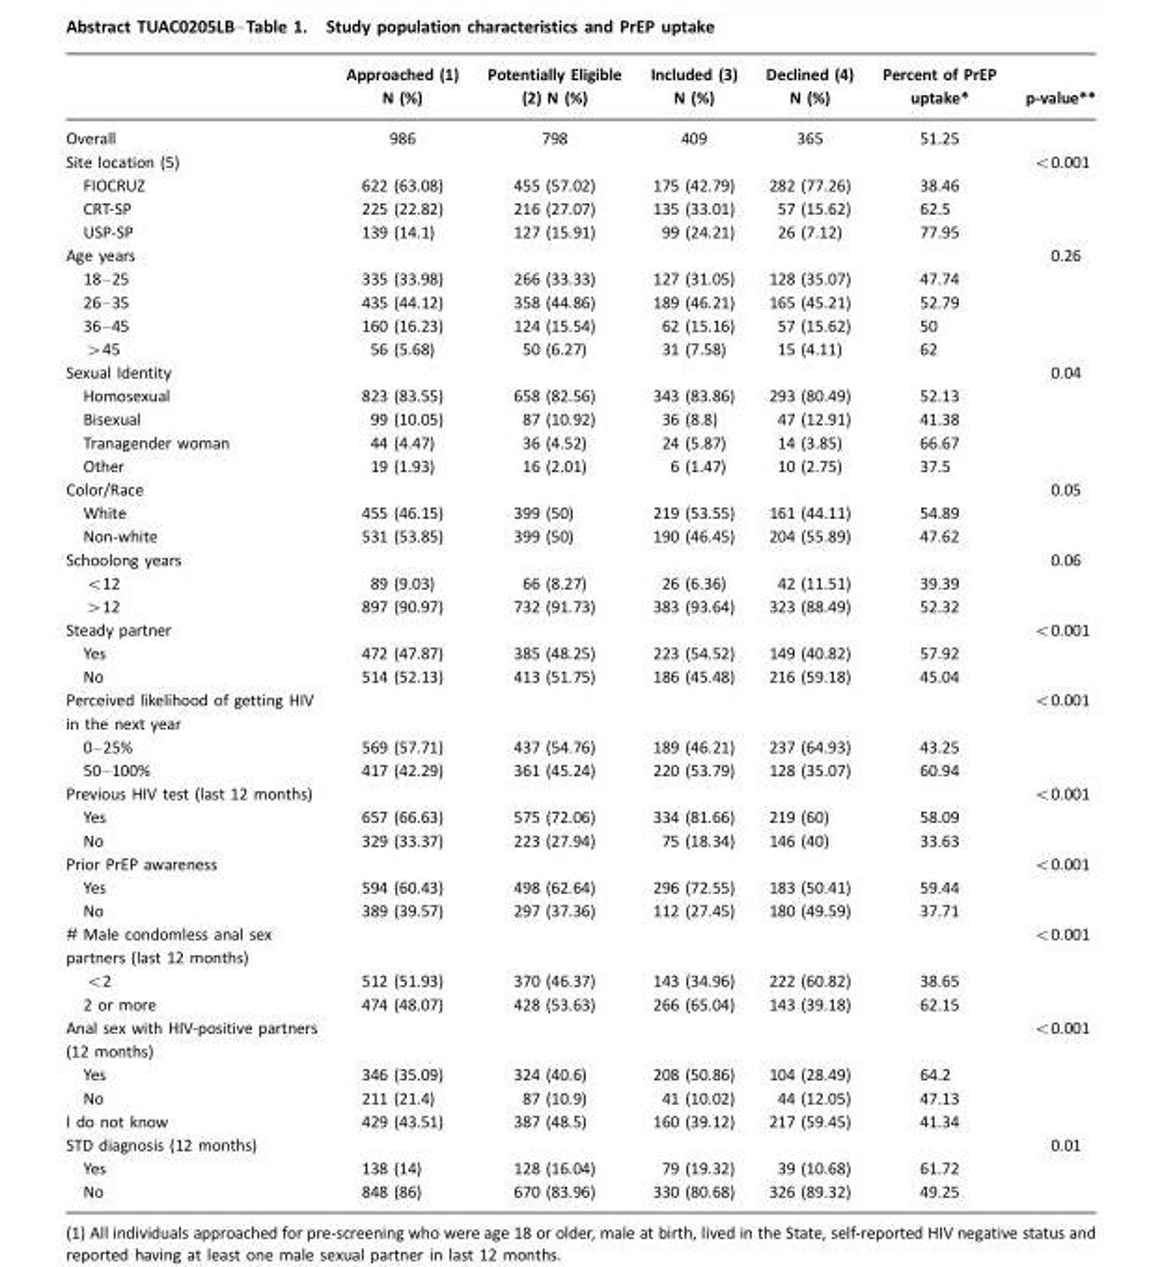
<table><thead><tr><td></td><td>Approached (1) N (%)</td><td>Potentially Eligible (2) N (%)</td><td>Included (3) N (%)</td><td>Declined (4) N (%)</td><td>Percent of PrEP uptake*</td><td>p-value**</td></tr></thead><tbody><tr><td>Overall</td><td>986</td><td>798</td><td>409</td><td>365</td><td>51.25</td><td></td></tr><tr><td>Site location (5)</td><td></td><td></td><td></td><td></td><td></td><td>&lt;0.001</td></tr><tr><td>FIOCRUZ</td><td>622 (63.08)</td><td>455 (57.02)</td><td>175 (42.79)</td><td>282 (77.26)</td><td>38.46</td><td></td></tr><tr><td>CRT-SP</td><td>225 (22.82)</td><td>216 (27.07)</td><td>135 (33.01)</td><td>57 (15.62)</td><td>62.5</td><td></td></tr><tr><td>USP-SP</td><td>139 (14.1)</td><td>127 (15.91)</td><td>99 (24.21)</td><td>26 (7.12)</td><td>77.95</td><td></td></tr><tr><td>Age years</td><td></td><td></td><td></td><td></td><td></td><td>0.26</td></tr><tr><td>18–25</td><td>335 (33.98)</td><td>266 (33.33)</td><td>127 (31.05)</td><td>128 (35.07)</td><td>47.74</td><td></td></tr><tr><td>26–35</td><td>435 (44.12)</td><td>358 (44.86)</td><td>189 (46.21)</td><td>165 (45.21)</td><td>52.79</td><td></td></tr><tr><td>36–45</td><td>160 (16.23)</td><td>124 (15.54)</td><td>62 (15.16)</td><td>57 (15.62)</td><td>50</td><td></td></tr><tr><td>&gt;45</td><td>56 (5.68)</td><td>50 (6.27)</td><td>31 (7.58)</td><td>15 (4.11)</td><td>62</td><td></td></tr><tr><td>Sexual Identity</td><td></td><td></td><td></td><td></td><td></td><td>0.04</td></tr><tr><td>Homosexual</td><td>823 (83.55)</td><td>658 (82.56)</td><td>343 (83.86)</td><td>293 (80.49)</td><td>52.13</td><td></td></tr><tr><td>Bisexual</td><td>99 (10.05)</td><td>87 (10.92)</td><td>36 (8.8)</td><td>47 (12.91)</td><td>41.38</td><td></td></tr><tr><td>Tranagender woman</td><td>44 (4.47)</td><td>36 (4.52)</td><td>24 (5.87)</td><td>14 (3.85)</td><td>66.67</td><td></td></tr><tr><td>Other</td><td>19 (1.93)</td><td>16 (2.01)</td><td>6 (1.47)</td><td>10 (2.75)</td><td>37.5</td><td></td></tr><tr><td>Color/Race</td><td></td><td></td><td></td><td></td><td></td><td>0.05</td></tr><tr><td>White</td><td>455 (46.15)</td><td>399 (50)</td><td>219 (53.55)</td><td>161 (44.11)</td><td>54.89</td><td></td></tr><tr><td>Non-white</td><td>531 (53.85)</td><td>399 (50)</td><td>190 (46.45)</td><td>204 (55.89)</td><td>47.62</td><td></td></tr><tr><td>Schoolong years</td><td></td><td></td><td></td><td></td><td></td><td>0.06</td></tr><tr><td>&lt;12</td><td>89 (9.03)</td><td>66 (8.27)</td><td>26 (6.36)</td><td>42 (11.51)</td><td>39.39</td><td></td></tr><tr><td>&gt;12</td><td>897 (90.97)</td><td>732 (91.73)</td><td>383 (93.64)</td><td>323 (88.49)</td><td>52.32</td><td></td></tr><tr><td>Steady partner</td><td></td><td></td><td></td><td></td><td></td><td>&lt;0.001</td></tr><tr><td>Yes</td><td>472 (47.87)</td><td>385 (48.25)</td><td>223 (54.52)</td><td>149 (40.82)</td><td>57.92</td><td></td></tr><tr><td>No</td><td>514 (52.13)</td><td>413 (51.75)</td><td>186 (45.48)</td><td>216 (59.18)</td><td>45.04</td><td></td></tr><tr><td>Perceived likelihood of getting HIV in the next year</td><td></td><td></td><td></td><td></td><td></td><td>&lt;0.001</td></tr><tr><td>0–25%</td><td>569 (57.71)</td><td>437 (54.76)</td><td>189 (46.21)</td><td>237 (64.93)</td><td>43.25</td><td></td></tr><tr><td>50–100%</td><td>417 (42.29)</td><td>361 (45.24)</td><td>220 (53.79)</td><td>128 (35.07)</td><td>60.94</td><td></td></tr><tr><td>Previous HIV test (last 12 months)</td><td></td><td></td><td></td><td></td><td></td><td>&lt;0.001</td></tr><tr><td>Yes</td><td>657 (66.63)</td><td>575 (72.06)</td><td>334 (81.66)</td><td>219 (60)</td><td>58.09</td><td></td></tr><tr><td>No</td><td>329 (33.37)</td><td>223 (27.94)</td><td>75 (18.34)</td><td>146 (40)</td><td>33.63</td><td></td></tr><tr><td>Prior PrEP awareness</td><td></td><td></td><td></td><td></td><td></td><td>&lt;0.001</td></tr><tr><td>Yes</td><td>594 (60.43)</td><td>498 (62.64)</td><td>296 (72.55)</td><td>183 (50.41)</td><td>59.44</td><td></td></tr><tr><td>No</td><td>389 (39.57)</td><td>297 (37.36)</td><td>112 (27.45)</td><td>180 (49.59)</td><td>37.71</td><td></td></tr><tr><td># Male condomless anal sex partners (last 12 months)</td><td></td><td></td><td></td><td></td><td></td><td>&lt;0.001</td></tr><tr><td>&lt;2</td><td>512 (51.93)</td><td>370 (46.37)</td><td>143 (34.96)</td><td>222 (60.82)</td><td>38.65</td><td></td></tr><tr><td>2 or more</td><td>474 (48.07)</td><td>428 (53.63)</td><td>266 (65.04)</td><td>143 (39.18)</td><td>62.15</td><td></td></tr><tr><td>Anal sex with HIV-positive partners (12 months)</td><td></td><td></td><td></td><td></td><td></td><td>&lt;0.001</td></tr><tr><td>Yes</td><td>346 (35.09)</td><td>324 (40.6)</td><td>208 (50.86)</td><td>104 (28.49)</td><td>64.2</td><td></td></tr><tr><td>No</td><td>211 (21.4)</td><td>87 (10.9)</td><td>41 (10.02)</td><td>44 (12.05)</td><td>47.13</td><td></td></tr><tr><td>I do not know</td><td>429 (43.51)</td><td>387 (48.5)</td><td>160 (39.12)</td><td>217 (59.45)</td><td>41.34</td><td></td></tr><tr><td>STD diagnosis (12 months)</td><td></td><td></td><td></td><td></td><td></td><td>0.01</td></tr><tr><td>Yes</td><td>138 (14)</td><td>128 (16.04)</td><td>79 (19.32)</td><td>39 (10.68)</td><td>61.72</td><td></td></tr><tr><td>No</td><td>848 (86)</td><td>670 (83.96)</td><td>330 (80.68)</td><td>326 (89.32)</td><td>49.25</td><td></td></tr></tbody></table>